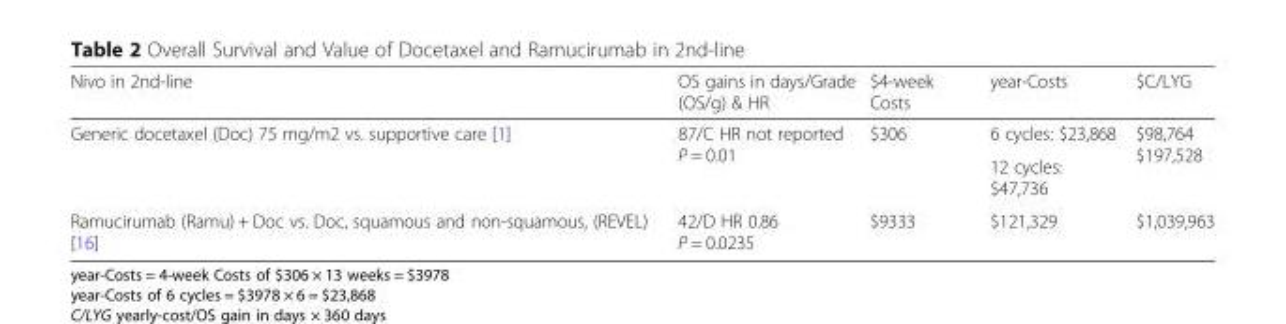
<table><thead><tr><td>Nivo in 2nd-line</td><td>OS gains in days/Grade (OS/g) &amp; HR</td><td>$4-week Costs</td><td>year-Costs</td><td>$C/LYG</td></tr></thead><tbody><tr><td rowspan="2">Generic docetaxel (Doc) 75 mg/m2 vs. supportive care [1]</td><td rowspan="2">87/C HR not reported P = 0.01</td><td rowspan="2">$306</td><td>6 cycles: $23,868</td><td rowspan="2">$98,764 $197,528</td></tr><tr><td>12 cycles: $47,736</td></tr><tr><td>Ramucirumab (Ramu) + Doc vs. Doc, squamous and non-squamous, (REVEL) [16]</td><td>42/D HR 0.86 P = 0.0235</td><td>$9333</td><td>$121,329</td><td>$1,039,963</td></tr></tbody></table>